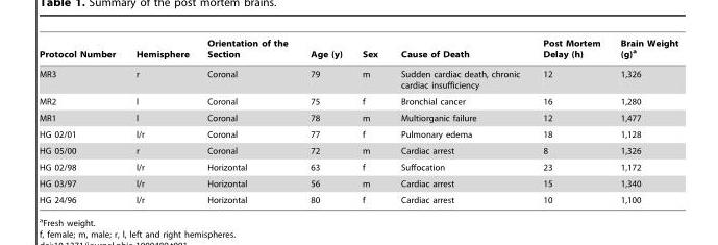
<table><thead><tr><td>Protocol Number</td><td>Hemisphere</td><td>Orientation of the Section</td><td>Age (y)</td><td>Sex</td><td>Cause of Death</td><td>Post Mortem Delay (h)</td><td>Brain Weight (g)<sup>a</sup></td></tr></thead><tbody><tr><td>MR3</td><td>r</td><td>Coronal</td><td>79</td><td>m</td><td>Sudden cardiac death, chronic cardiac insufficiency</td><td>12</td><td>1,326</td></tr><tr><td>MR2</td><td>l</td><td>Coronal</td><td>75</td><td>f</td><td>Bronchial cancer</td><td>16</td><td>1,280</td></tr><tr><td>MR1</td><td>l</td><td>Coronal</td><td>78</td><td>m</td><td>Multiorganic failure</td><td>12</td><td>1,477</td></tr><tr><td>HG 02/01</td><td>l/r</td><td>Coronal</td><td>77</td><td>f</td><td>Pulmonary edema</td><td>18</td><td>1,128</td></tr><tr><td>HG 05/00</td><td>r</td><td>Coronal</td><td>72</td><td>m</td><td>Cardiac arrest</td><td>8</td><td>1,326</td></tr><tr><td>HG 02/98</td><td>l/r</td><td>Horizontal</td><td>63</td><td>f</td><td>Suffocation</td><td>23</td><td>1,172</td></tr><tr><td>HG 03/97</td><td>l/r</td><td>Horizontal</td><td>56</td><td>m</td><td>Cardiac arrest</td><td>15</td><td>1,340</td></tr><tr><td>HG 24/96</td><td>l/r</td><td>Horizontal</td><td>80</td><td>f</td><td>Cardiac arrest</td><td>10</td><td>1,100</td></tr></tbody></table>